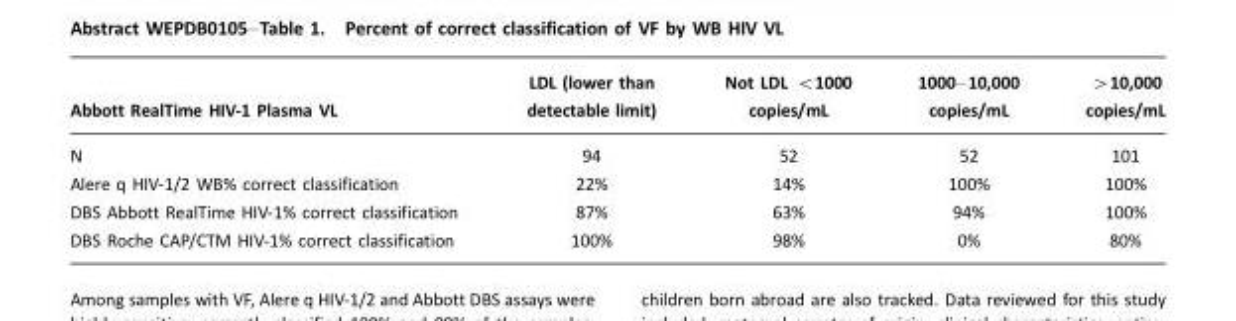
<table><thead><tr><td>Abbott RealTime HIV-1 Plasma VL</td><td>LDL (lower than detectable limit)</td><td>Not LDL &lt;1000 copies/mL</td><td>1000–10,000 copies/mL</td><td>&gt;10,000 copies/mL</td></tr></thead><tbody><tr><td>N</td><td>94</td><td>52</td><td>52</td><td>101</td></tr><tr><td>Alere q HIV-1/2 WB% correct classification</td><td>22%</td><td>14%</td><td>100%</td><td>100%</td></tr><tr><td>DBS Abbott RealTime HIV-1% correct classification</td><td>87%</td><td>63%</td><td>94%</td><td>100%</td></tr><tr><td>DBS Roche CAP/CTM HIV-1% correct classification</td><td>100%</td><td>98%</td><td>0%</td><td>80%</td></tr></tbody></table>